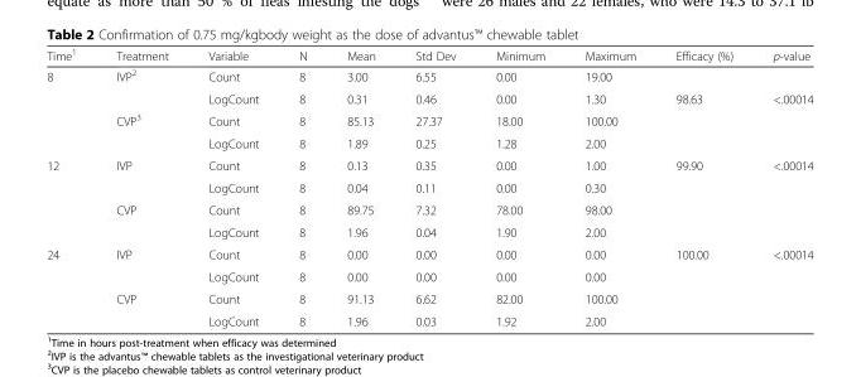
<table><thead><tr><td>Time<sup>1</sup></td><td>Treatment</td><td>Variable</td><td>N</td><td>Mean</td><td>Std Dev</td><td>Minimum</td><td>Maximum</td><td>Efficacy (%)</td><td>p-value</td></tr></thead><tbody><tr><td rowspan="4">8</td><td rowspan="2">IVP<sup>2</sup></td><td>Count</td><td>8</td><td>3.00</td><td>6.55</td><td>0.00</td><td>19.00</td><td></td><td></td></tr><tr><td>LogCount</td><td>8</td><td>0.31</td><td>0.46</td><td>0.00</td><td>1.30</td><td rowspan="3">98.63</td><td rowspan="3">&lt;.00014</td></tr><tr><td rowspan="2">CVP<sup>3</sup></td><td>Count</td><td>8</td><td>85.13</td><td>27.37</td><td>18.00</td><td>100.00</td></tr><tr><td>LogCount</td><td>8</td><td>1.89</td><td>0.25</td><td>1.28</td><td>2.00</td></tr><tr><td rowspan="4">12</td><td rowspan="2">IVP</td><td>Count</td><td>8</td><td>0.13</td><td>0.35</td><td>0.00</td><td>1.00</td><td rowspan="4">99.90</td><td rowspan="4">&lt;.00014</td></tr><tr><td>LogCount</td><td>8</td><td>0.04</td><td>0.11</td><td>0.00</td><td>0.30</td></tr><tr><td rowspan="2">CVP</td><td>Count</td><td>8</td><td>89.75</td><td>7.32</td><td>78.00</td><td>98.00</td></tr><tr><td>LogCount</td><td>8</td><td>1.96</td><td>0.04</td><td>1.90</td><td>2.00</td></tr><tr><td rowspan="4">24</td><td rowspan="2">IVP</td><td>Count</td><td>8</td><td>0.00</td><td>0.00</td><td>0.00</td><td>0.00</td><td rowspan="4">100.00</td><td rowspan="4">&lt;.00014</td></tr><tr><td>LogCount</td><td>8</td><td>0.00</td><td>0.00</td><td>0.00</td><td>0.00</td></tr><tr><td rowspan="2">CVP</td><td>Count</td><td>8</td><td>91.13</td><td>6.62</td><td>82.00</td><td>100.00</td></tr><tr><td>LogCount</td><td>8</td><td>1.96</td><td>0.03</td><td>1.92</td><td>2.00</td></tr></tbody></table>